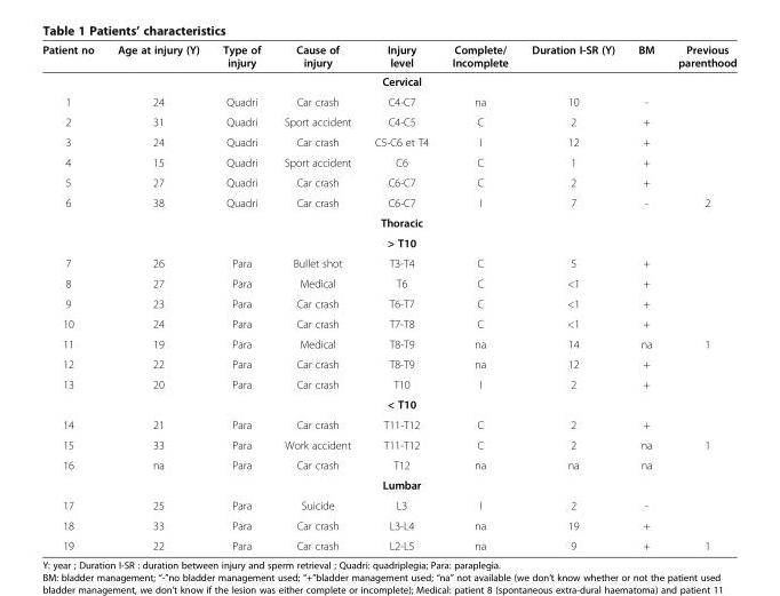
<table><thead><tr><td>Patient no</td><td>Age at injury (Y)</td><td>Type of injury</td><td>Cause of injury</td><td>Injury level</td><td>Complete/ Incomplete</td><td>Duration I-SR (Y)</td><td>BM</td><td>Previous parenthood</td></tr></thead><tbody><tr><td></td><td></td><td></td><td></td><td>Cervical</td><td></td><td></td><td></td><td></td></tr><tr><td>1</td><td>24</td><td>Quadri</td><td>Car crash</td><td>C4-C7</td><td>na</td><td>10</td><td>-</td><td></td></tr><tr><td>2</td><td>31</td><td>Quadri</td><td>Sport accident</td><td>C4-C5</td><td>C</td><td>2</td><td>+</td><td></td></tr><tr><td>3</td><td>24</td><td>Quadri</td><td>Car crash</td><td>C5-C6 et T4</td><td>I</td><td>12</td><td>+</td><td></td></tr><tr><td>4</td><td>15</td><td>Quadri</td><td>Sport accident</td><td>C6</td><td>C</td><td>1</td><td>+</td><td></td></tr><tr><td>5</td><td>27</td><td>Quadri</td><td>Car crash</td><td>C6-C7</td><td>C</td><td>2</td><td>+</td><td></td></tr><tr><td rowspan="3">6</td><td>38</td><td>Quadri</td><td>Car crash</td><td>C6-C7</td><td>I</td><td>7</td><td>-</td><td>2</td></tr><tr><td></td><td></td><td></td><td>Thoracic</td><td></td><td></td><td></td><td></td></tr><tr><td></td><td></td><td></td><td>&gt; T10</td><td></td><td></td><td></td><td></td></tr><tr><td>7</td><td>26</td><td>Para</td><td>Bullet shot</td><td>T3-T4</td><td>C</td><td>5</td><td>+</td><td></td></tr><tr><td>8</td><td>27</td><td>Para</td><td>Medical</td><td>T6</td><td>C</td><td>&lt;1</td><td>+</td><td></td></tr><tr><td>9</td><td>23</td><td>Para</td><td>Car crash</td><td>T6-T7</td><td>C</td><td>&lt;1</td><td>+</td><td></td></tr><tr><td>10</td><td>24</td><td>Para</td><td>Car crash</td><td>T7-T8</td><td>C</td><td>&lt;1</td><td>+</td><td></td></tr><tr><td>11</td><td>19</td><td>Para</td><td>Medical</td><td>T8-T9</td><td>na</td><td>14</td><td>na</td><td>1</td></tr><tr><td>12</td><td>22</td><td>Para</td><td>Car crash</td><td>T8-T9</td><td>na</td><td>12</td><td>+</td><td></td></tr><tr><td rowspan="2">13</td><td>20</td><td>Para</td><td>Car crash</td><td>T10</td><td>I</td><td>2</td><td>+</td><td></td></tr><tr><td></td><td></td><td></td><td>&lt; T10</td><td></td><td></td><td></td><td></td></tr><tr><td>14</td><td>21</td><td>Para</td><td>Car crash</td><td>T11-T12</td><td>C</td><td>2</td><td>+</td><td></td></tr><tr><td>15</td><td>33</td><td>Para</td><td>Work accident</td><td>T11-T12</td><td>C</td><td>2</td><td>na</td><td>1</td></tr><tr><td rowspan="2">16</td><td>na</td><td>Para</td><td>Car crash</td><td>T12</td><td>na</td><td>na</td><td>na</td><td></td></tr><tr><td></td><td></td><td></td><td>Lumbar</td><td></td><td></td><td></td><td></td></tr><tr><td>17</td><td>25</td><td>Para</td><td>Suicide</td><td>L3</td><td>I</td><td>2</td><td>-</td><td></td></tr><tr><td>18</td><td>33</td><td>Para</td><td>Car crash</td><td>L3-L4</td><td>na</td><td>19</td><td>+</td><td></td></tr><tr><td>19</td><td>22</td><td>Para</td><td>Car crash</td><td>L2-L5</td><td>na</td><td>9</td><td>+</td><td>1</td></tr></tbody></table>